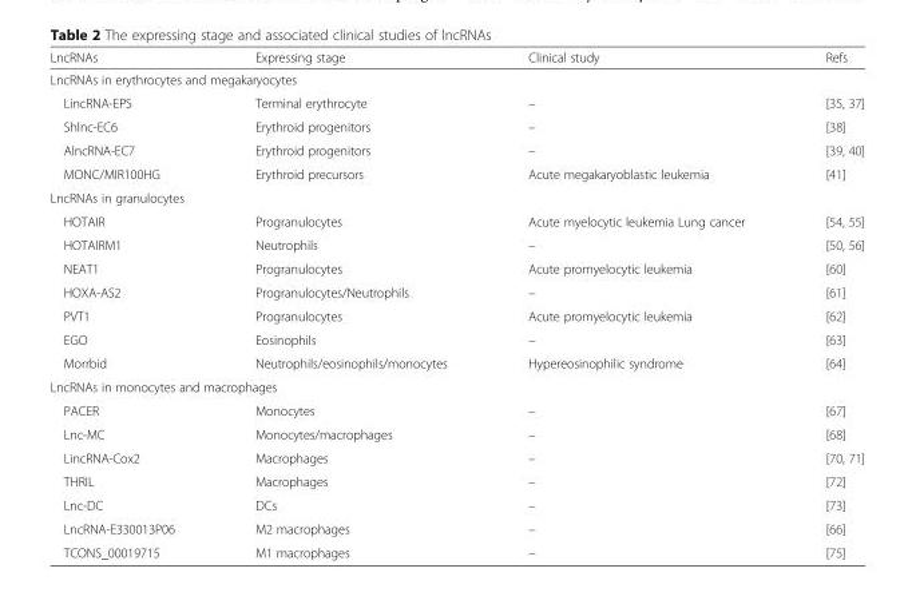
<table><thead><tr><td>LncRNAs</td><td>Expressing stage</td><td>Clinical study</td><td>Refs</td></tr></thead><tbody><tr><td colspan="4">LncRNAs in erythrocytes and megakaryocytes</td></tr><tr><td>LincRNA-EPS</td><td>Terminal erythrocyte</td><td>–</td><td>[35, 37]</td></tr><tr><td>Shlnc-EC6</td><td>Erythroid progenitors</td><td>–</td><td>[38]</td></tr><tr><td>AlncRNA-EC7</td><td>Erythroid progenitors</td><td>–</td><td>[39, 40]</td></tr><tr><td>MONC/MIR100HG</td><td>Erythroid precursors</td><td>Acute megakaryoblastic leukemia</td><td>[41]</td></tr><tr><td colspan="4">LncRNAs in granulocytes</td></tr><tr><td>HOTAIR</td><td>Progranulocytes</td><td>Acute myelocytic leukemia Lung cancer</td><td>[54, 55]</td></tr><tr><td>HOTAIRM1</td><td>Neutrophils</td><td>–</td><td>[50, 56]</td></tr><tr><td>NEAT1</td><td>Progranulocytes</td><td>Acute promyelocytic leukemia</td><td>[60]</td></tr><tr><td>HOXA-AS2</td><td>Progranulocytes/Neutrophils</td><td>–</td><td>[61]</td></tr><tr><td>PVT1</td><td>Progranulocytes</td><td>Acute promyelocytic leukemia</td><td>[62]</td></tr><tr><td>EGO</td><td>Eosinophils</td><td>–</td><td>[63]</td></tr><tr><td>Morrbid</td><td>Neutrophils/eosinophils/monocytes</td><td>Hypereosinophilic syndrome</td><td>[64]</td></tr><tr><td colspan="4">LncRNAs in monocytes and macrophages</td></tr><tr><td>PACER</td><td>Monocytes</td><td>–</td><td>[67]</td></tr><tr><td>Lnc-MC</td><td>Monocytes/macrophages</td><td>–</td><td>[68]</td></tr><tr><td>LincRNA-Cox2</td><td>Macrophages</td><td>–</td><td>[70, 71]</td></tr><tr><td>THRIL</td><td>Macrophages</td><td>–</td><td>[72]</td></tr><tr><td>Lnc-DC</td><td>DCs</td><td>–</td><td>[73]</td></tr><tr><td>LncRNA-E330013P06</td><td>M2 macrophages</td><td>–</td><td>[66]</td></tr><tr><td>TCONS_00019715</td><td>M1 macrophages</td><td>–</td><td>[75]</td></tr></tbody></table>